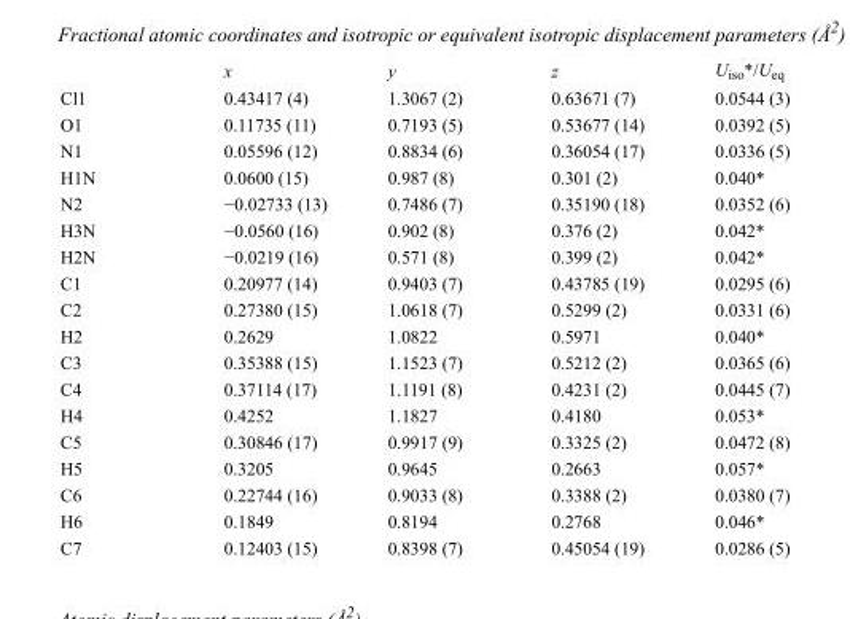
<table><thead><tr><td></td><td>x</td><td>y</td><td>z</td><td>U<sub>iso</sub>*/U<sub>eq</sub></td></tr></thead><tbody><tr><td>Cl1</td><td>0.43417 (4)</td><td>1.3067 (2)</td><td>0.63671 (7)</td><td>0.0544 (3)</td></tr><tr><td>O1</td><td>0.11735 (11)</td><td>0.7193 (5)</td><td>0.53677 (14)</td><td>0.0392 (5)</td></tr><tr><td>N1</td><td>0.05596 (12)</td><td>0.8834 (6)</td><td>0.36054 (17)</td><td>0.0336 (5)</td></tr><tr><td>H1N</td><td>0.0600 (15)</td><td>0.987 (8)</td><td>0.301 (2)</td><td>0.040*</td></tr><tr><td>N2</td><td>−0.02733 (13)</td><td>0.7486 (7)</td><td>0.35190 (18)</td><td>0.0352 (6)</td></tr><tr><td>H3N</td><td>−0.0560 (16)</td><td>0.902 (8)</td><td>0.376 (2)</td><td>0.042*</td></tr><tr><td>H2N</td><td>−0.0219 (16)</td><td>0.571 (8)</td><td>0.399 (2)</td><td>0.042*</td></tr><tr><td>C1</td><td>0.20977 (14)</td><td>0.9403 (7)</td><td>0.43785 (19)</td><td>0.0295 (6)</td></tr><tr><td>C2</td><td>0.27380 (15)</td><td>1.0618 (7)</td><td>0.5299 (2)</td><td>0.0331 (6)</td></tr><tr><td>H2</td><td>0.2629</td><td>1.0822</td><td>0.5971</td><td>0.040*</td></tr><tr><td>C3</td><td>0.35388 (15)</td><td>1.1523 (7)</td><td>0.5212 (2)</td><td>0.0365 (6)</td></tr><tr><td>C4</td><td>0.37114 (17)</td><td>1.1191 (8)</td><td>0.4231 (2)</td><td>0.0445 (7)</td></tr><tr><td>H4</td><td>0.4252</td><td>1.1827</td><td>0.4180</td><td>0.053*</td></tr><tr><td>C5</td><td>0.30846 (17)</td><td>0.9917 (9)</td><td>0.3325 (2)</td><td>0.0472 (8)</td></tr><tr><td>H5</td><td>0.3205</td><td>0.9645</td><td>0.2663</td><td>0.057*</td></tr><tr><td>C6</td><td>0.22744 (16)</td><td>0.9033 (8)</td><td>0.3388 (2)</td><td>0.0380 (7)</td></tr><tr><td>H6</td><td>0.1849</td><td>0.8194</td><td>0.2768</td><td>0.046*</td></tr><tr><td>C7</td><td>0.12403 (15)</td><td>0.8398 (7)</td><td>0.45054 (19)</td><td>0.0286 (5)</td></tr></tbody></table>